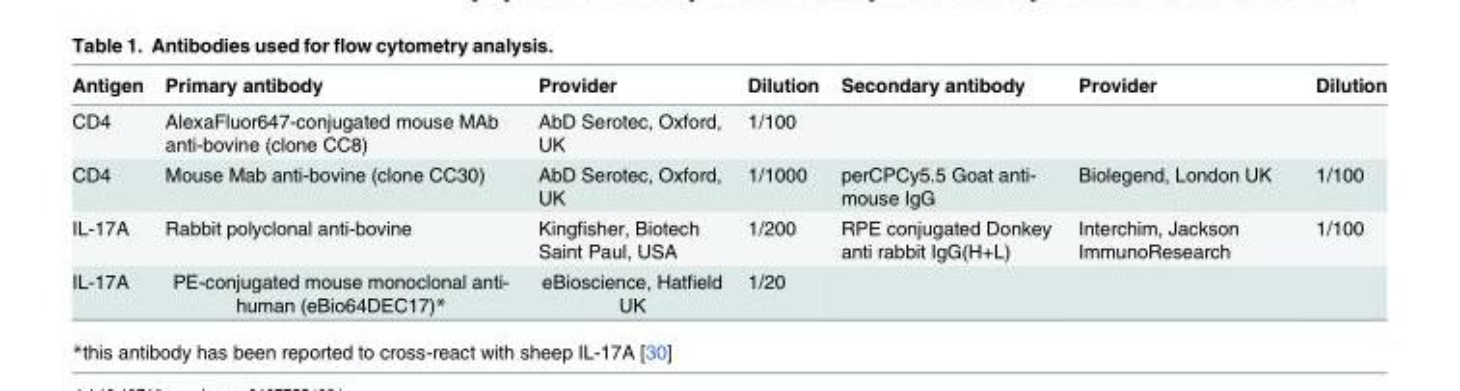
<table><thead><tr><td>Antigen</td><td>Primary antibody</td><td>Provider</td><td>Dilution</td><td>Secondary antibody</td><td>Provider</td><td>Dilution</td></tr></thead><tbody><tr><td>CD4</td><td>AlexaFluor647-conjugated mouse MAb anti-bovine (clone CC8)</td><td>AbD Serotec, Oxford, UK</td><td>1/100</td><td></td><td></td><td></td></tr><tr><td>CD4</td><td>Mouse Mab anti-bovine (clone CC30)</td><td>AbD Serotec, Oxford, UK</td><td>1/1000</td><td>perCPCy5.5 Goat anti- mouse IgG</td><td>Biolegend, London UK</td><td>1/100</td></tr><tr><td>IL-17A</td><td>Rabbit polyclonal anti-bovine</td><td>Kingfisher, Biotech Saint Paul, USA</td><td>1/200</td><td>RPE conjugated Donkey anti rabbit IgG(H+L)</td><td>Interchim, Jackson ImmunoResearch</td><td>1/100</td></tr><tr><td>IL-17A</td><td>PE-conjugated mouse monoclonal anti- human (eBio64DEC17)*</td><td>eBioscience, Hatfield UK</td><td>1/20</td><td></td><td></td><td></td></tr></tbody></table>